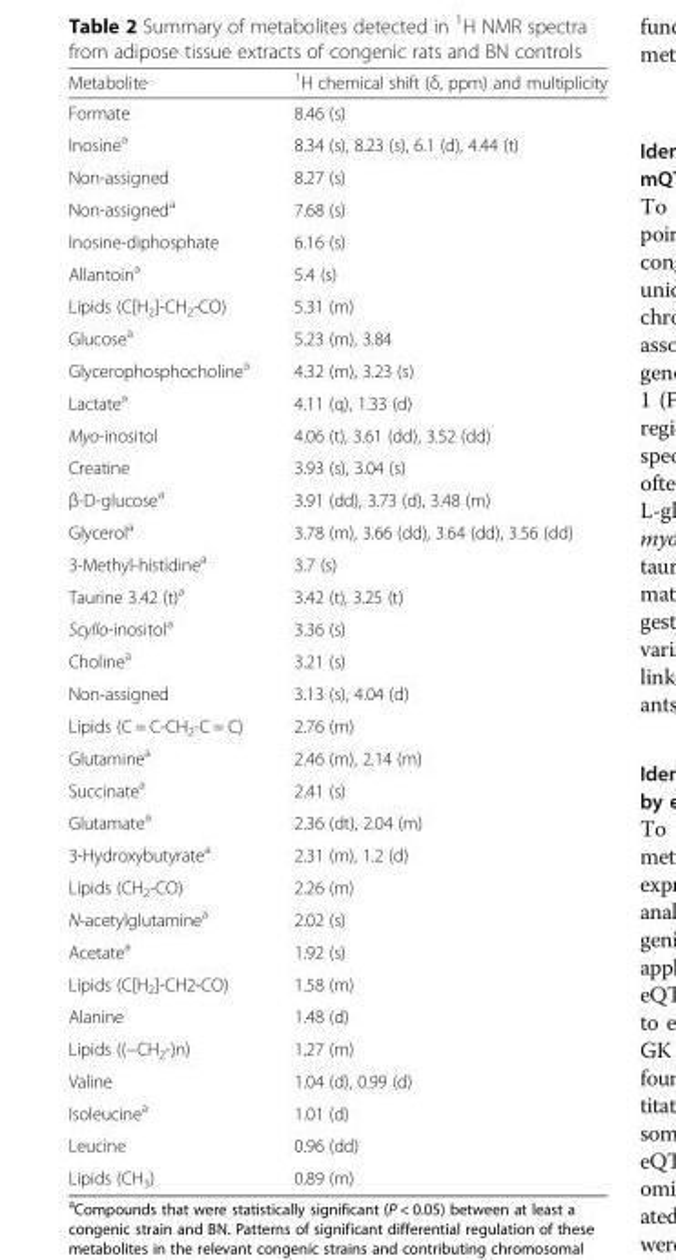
<table><thead><tr><td>Metabolite</td><td><sup>1</sup>H chemical shift (δ, ppm) and multiplicity</td></tr></thead><tbody><tr><td>Formate</td><td>8.46 (s)</td></tr><tr><td>Inosine<sup>a</sup></td><td>8.34 (s), 8.23 (s), 6.1 (d), 4.44 (t)</td></tr><tr><td>Non-assigned</td><td>8.27 (s)</td></tr><tr><td>Non-assigned<sup>a</sup></td><td>7.68 (s)</td></tr><tr><td>Inosine-diphosphate</td><td>6.16 (s)</td></tr><tr><td>Allantoin<sup>a</sup></td><td>5.4 (s)</td></tr><tr><td>Lipids (C[H<sub>2</sub>]-CH<sub>2</sub>-CO)</td><td>5.31 (m)</td></tr><tr><td>Glucose<sup>a</sup></td><td>5.23 (m), 3.84</td></tr><tr><td>Glycerophosphocholine<sup>a</sup></td><td>4.32 (m), 3.23 (s)</td></tr><tr><td>Lactate<sup>a</sup></td><td>4.11 (q), 1.33 (d)</td></tr><tr><td>Myo-inositol</td><td>4.06 (t), 3.61 (dd), 3.52 (dd)</td></tr><tr><td>Creatine</td><td>3.93 (s), 3.04 (s)</td></tr><tr><td>β-D-glucose<sup>a</sup></td><td>3.91 (dd), 3.73 (d), 3.48 (m)</td></tr><tr><td>Glycerol<sup>a</sup></td><td>3.78 (m), 3.66 (dd), 3.64 (dd), 3.56 (dd)</td></tr><tr><td>3-Methyl-histidine<sup>a</sup></td><td>3.7 (s)</td></tr><tr><td>Taurine 3.42 (t)<sup>a</sup></td><td>3.42 (t), 3.25 (t)</td></tr><tr><td>Scyllo-inositol<sup>a</sup></td><td>3.36 (s)</td></tr><tr><td>Choline<sup>a</sup></td><td>3.21 (s)</td></tr><tr><td>Non-assigned</td><td>3.13 (s), 4.04 (d)</td></tr><tr><td>Lipids (C = C-CH<sub>2</sub>-C = C)</td><td>2.76 (m)</td></tr><tr><td>Glutamine<sup>a</sup></td><td>2.46 (m), 2.14 (m)</td></tr><tr><td>Succinate<sup>a</sup></td><td>2.41 (s)</td></tr><tr><td>Glutamate<sup>a</sup></td><td>2.36 (dt), 2.04 (m)</td></tr><tr><td>3-Hydroxybutyrate<sup>a</sup></td><td>2.31 (m), 1.2 (d)</td></tr><tr><td>Lipids (CH<sub>2</sub>-CO)</td><td>2.26 (m)</td></tr><tr><td>N-acetylglutamine<sup>a</sup></td><td>2.02 (s)</td></tr><tr><td>Acetate<sup>a</sup></td><td>1.92 (s)</td></tr><tr><td>Lipids (C[H<sub>2</sub>]-CH2-CO)</td><td>1.58 (m)</td></tr><tr><td>Alanine</td><td>1.48 (d)</td></tr><tr><td>Lipids ((−CH<sub>2</sub>-)n)</td><td>1.27 (m)</td></tr><tr><td>Valine</td><td>1.04 (d), 0.99 (d)</td></tr><tr><td>Isoleucine<sup>a</sup></td><td>1.01 (d)</td></tr><tr><td>Leucine</td><td>0.96 (dd)</td></tr><tr><td>Lipids (CH<sub>3</sub>)</td><td>0.89 (m)</td></tr></tbody></table>